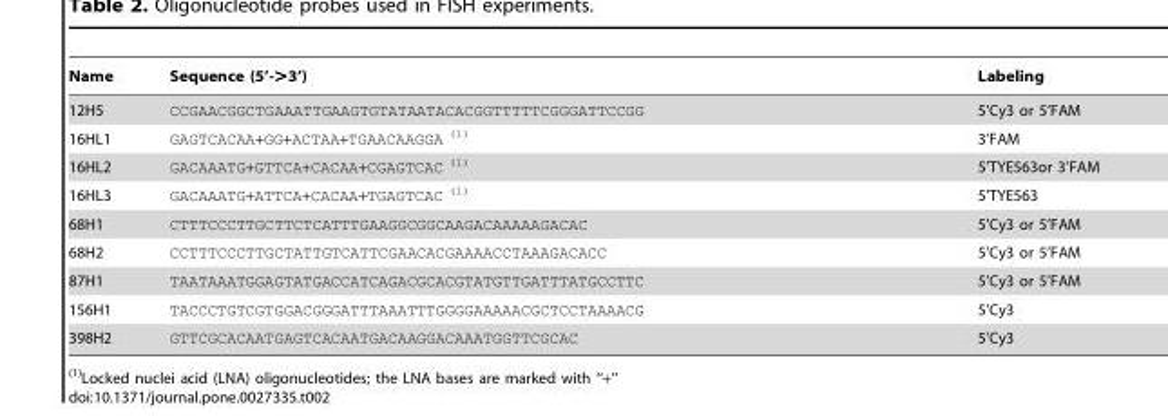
<table><thead><tr><td>Name</td><td>Sequence (5’-&gt;3’)</td><td>Labeling</td></tr></thead><tbody><tr><td>12H5</td><td>CCGAACGGCTGAAATTGAAGTGTATAATACACGGTTTTTCGGGATTCCGG</td><td>5’Cy3 or 5’FAM</td></tr><tr><td>16HL1</td><td>GAGTCACAA+GG+ACTAA+TGAACAAGGA (1)</td><td>3’FAM</td></tr><tr><td>16HL2</td><td>GACAAATG+GTTCA+CACAA+CGAGTCAC (1)</td><td>5’TYE563or 3’FAM</td></tr><tr><td>16HL3</td><td>GACAAATG+ATTCA+CACAA+TGAGTCAC (1)</td><td>5’TYE563</td></tr><tr><td>68H1</td><td>CTTTCCCTTGCTTCTCATTTGAAGGCGGCAAGACAAAAAGACAC</td><td>5’Cy3 or 5’FAM</td></tr><tr><td>68H2</td><td>CCTTTCCCTTGCTATTGTCATTCGAACACGAAAACCTAAAGACACC</td><td>5’Cy3 or 5’FAM</td></tr><tr><td>87H1</td><td>TAATAAATGGAGTATGACCATCAGACGCACGTATGTTGATTTATGCCTTC</td><td>5’Cy3 or 5’FAM</td></tr><tr><td>156H1</td><td>TACCCTGTCGTGGACGGGATTTAAATTTGGGGAAAAACGCTCCTAAAACG</td><td>5’Cy3</td></tr><tr><td>398H2</td><td>GTTCGCACAATGAGTCACAATGACAAGGACAAATGGTTCGCAC</td><td>5’Cy3</td></tr></tbody></table>